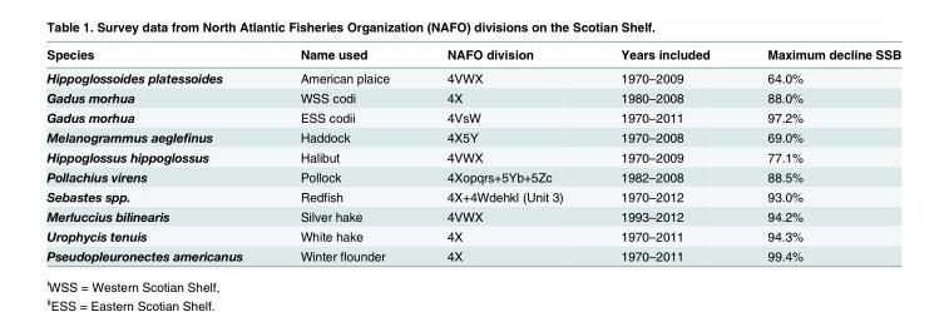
<table><thead><tr><td>Species</td><td>Name used</td><td>NAFO division</td><td>Years included</td><td>Maximum decline SSB</td></tr></thead><tbody><tr><td>Hippoglossoides platessoides</td><td>American plaice</td><td>4VWX</td><td>1970–2009</td><td>64.0%</td></tr><tr><td>Gadus morhua</td><td>WSS codi</td><td>4X</td><td>1980–2008</td><td>88.0%</td></tr><tr><td>Gadus morhua</td><td>ESS codii</td><td>4VsW</td><td>1970–2011</td><td>97.2%</td></tr><tr><td>Melanogrammus aeglefinus</td><td>Haddock</td><td>4X5Y</td><td>1970–2008</td><td>69.0%</td></tr><tr><td>Hippoglossus hippoglossus</td><td>Halibut</td><td>4VWX</td><td>1970–2009</td><td>77.1%</td></tr><tr><td>Pollachius virens</td><td>Pollock</td><td>4Xopqrs+5Yb+5Zc</td><td>1982–2008</td><td>88.5%</td></tr><tr><td>Sebastes spp.</td><td>Redfish</td><td>4X+4Wdehkl (Unit 3)</td><td>1970–2012</td><td>93.0%</td></tr><tr><td>Merluccius bilinearis</td><td>Silver hake</td><td>4VWX</td><td>1993–2012</td><td>94.2%</td></tr><tr><td>Urophycis tenuis</td><td>White hake</td><td>4X</td><td>1970–2011</td><td>94.3%</td></tr><tr><td>Pseudopleuronectes americanus</td><td>Winter flounder</td><td>4X</td><td>1970–2011</td><td>99.4%</td></tr></tbody></table>